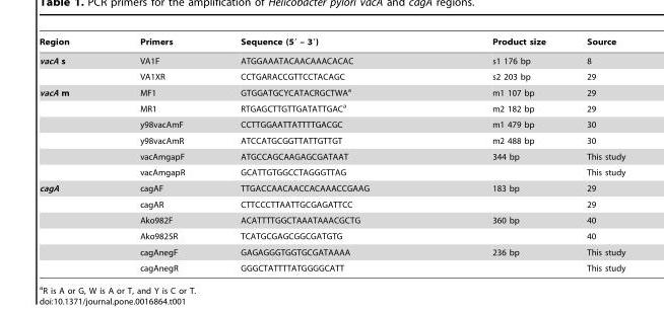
<table><thead><tr><td>Region</td><td>Primers</td><td>Sequence (5′ – 3′)</td><td>Product size</td><td>Source</td></tr></thead><tbody><tr><td rowspan="2">vacA s</td><td>VA1F</td><td>ATGGAAATACAACAAACACAC</td><td>s1 176 bp</td><td>8</td></tr><tr><td>VA1XR</td><td>CCTGARACCGTTCCTACAGC</td><td>s2 203 bp</td><td>29</td></tr><tr><td rowspan="6">vacA m</td><td>MF1</td><td>GTGGATGCYCATACRGCTWA<sup>a</sup></td><td>m1 107 bp</td><td>29</td></tr><tr><td>MR1</td><td>RTGAGCTTGTTGATATTGAC<sup>a</sup></td><td>m2 182 bp</td><td>29</td></tr><tr><td>y98vacAmF</td><td>CCTTGGAATTATTTTGACGC</td><td>m1 479 bp</td><td>30</td></tr><tr><td>y98vacAmR</td><td>ATCCATGCGGTTATTGTTGT</td><td>m2 488 bp</td><td>30</td></tr><tr><td>vacAmgapF</td><td>ATGCCAGCAAGAGCGATAAT</td><td>344 bp</td><td>This study</td></tr><tr><td>vacAmgapR</td><td>GCATTGTGGCCTAGGGTTAG</td><td></td><td>This study</td></tr><tr><td rowspan="6">cagA</td><td>cagAF</td><td>TTGACCAACAACCACAAACCGAAG</td><td>183 bp</td><td>29</td></tr><tr><td>cagAR</td><td>CTTCCCTTAATTGCGAGATTCC</td><td></td><td>29</td></tr><tr><td>Ako982F</td><td>ACATTTTGGCTAAATAAACGCTG</td><td>360 bp</td><td>40</td></tr><tr><td>Ako9825R</td><td>TCATGCGAGCGGCGATGTG</td><td></td><td>40</td></tr><tr><td>cagAnegF</td><td>GAGAGGGTGGTGCGATAAAA</td><td>236 bp</td><td>This study</td></tr><tr><td>cagAnegR</td><td>GGGCTATTTTATGGGGCATT</td><td></td><td>This study</td></tr></tbody></table>